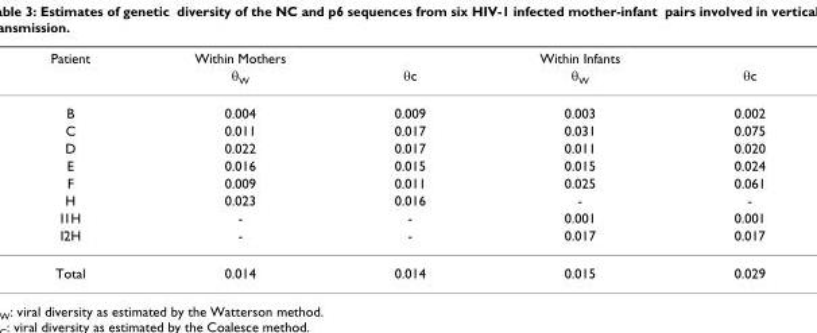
<table><thead><tr><td rowspan="2">Patient</td><td rowspan="2">Within Mothers θ<sub>W</sub></td><td rowspan="2">θc</td><td rowspan="2">Within Infants θ<sub>W</sub></td><td rowspan="2">θc</td></tr><tr></tr></thead><tbody><tr><td>B</td><td>0.004</td><td>0.009</td><td>0.003</td><td>0.002</td></tr><tr><td>C</td><td>0.011</td><td>0.017</td><td>0.031</td><td>0.075</td></tr><tr><td>D</td><td>0.022</td><td>0.017</td><td>0.011</td><td>0.020</td></tr><tr><td>E</td><td>0.016</td><td>0.015</td><td>0.015</td><td>0.024</td></tr><tr><td>F</td><td>0.009</td><td>0.011</td><td>0.025</td><td>0.061</td></tr><tr><td>H</td><td>0.023</td><td>0.016</td><td>-</td><td>-</td></tr><tr><td>I1H</td><td>-</td><td>-</td><td>0.001</td><td>0.001</td></tr><tr><td>I2H</td><td>-</td><td>-</td><td>0.017</td><td>0.017</td></tr><tr><td>Total</td><td>0.014</td><td>0.014</td><td>0.015</td><td>0.029</td></tr></tbody></table>